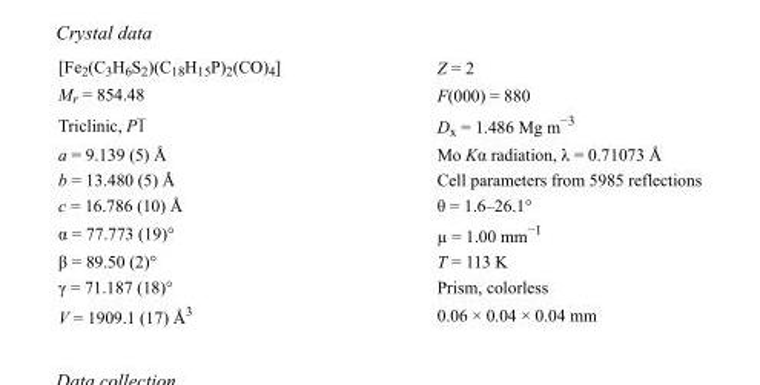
<table><tbody><tr><td>[Fe<sub>2</sub>(C<sub>3</sub>H<sub>6</sub>S<sub>2</sub>)(C<sub>18</sub>H<sub>15</sub>P)<sub>2</sub>(CO)<sub>4</sub>]</td><td>Z = 2</td></tr><tr><td>M<sub>r</sub> = 854.48</td><td>F(000) = 880</td></tr><tr><td>Triclinic, P1</td><td>D<sub>x</sub> = 1.486 Mg m<sup>−3</sup></td></tr><tr><td>a = 9.139 (5) Å</td><td>Mo Kα radiation, λ = 0.71073 Å</td></tr><tr><td>b = 13.480 (5) Å</td><td>Cell parameters from 5985 reflections</td></tr><tr><td>c = 16.786 (10) Å</td><td>θ = 1.6–26.1°</td></tr><tr><td>α = 77.773 (19)°</td><td>µ = 1.00 mm<sup>−1</sup></td></tr><tr><td>β = 89.50 (2)°</td><td>T = 113 K</td></tr><tr><td>γ = 71.187 (18)°</td><td>Prism, colorless</td></tr><tr><td>V = 1909.1 (17) Å<sup>3</sup></td><td>0.06 × 0.04 × 0.04 mm</td></tr></tbody></table>